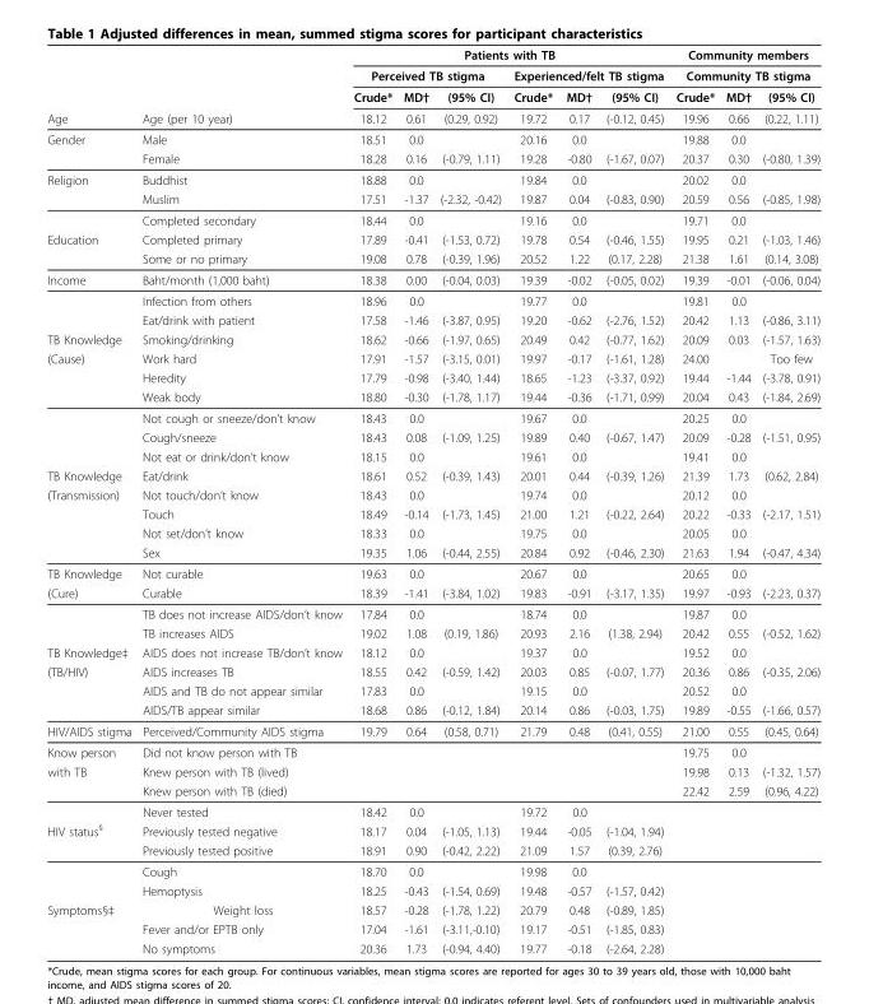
<table><thead><tr><td rowspan="3"></td><td rowspan="3"></td><td colspan="6">Patients with TB</td><td rowspan="2" colspan="3">Community members Community TB stigma</td></tr><tr><td colspan="3">Perceived TB stigma</td><td colspan="3">Experienced/felt TB stigma</td></tr><tr><td>Crude*</td><td>MD†</td><td>(95% CI)</td><td>Crude*</td><td>MD†</td><td>(95% CI)</td><td>Crude*</td><td>MD†</td><td>(95% CI)</td></tr></thead><tbody><tr><td>Age</td><td>Age (per 10 year)</td><td>18.12</td><td>0.61</td><td>(0.29, 0.92)</td><td>19.72</td><td>0.17</td><td>(-0.12, 0.45)</td><td>19.96</td><td>0.66</td><td>(0.22, 1.11)</td></tr><tr><td rowspan="2">Gender</td><td>Male</td><td>18.51</td><td>0.0</td><td></td><td>20.16</td><td>0.0</td><td></td><td>19.88</td><td>0.0</td><td></td></tr><tr><td>Female</td><td>18.28</td><td>0.16</td><td>(-0.79, 1.11)</td><td>19.28</td><td>-0.80</td><td>(-1.67, 0.07)</td><td>20.37</td><td>0.30</td><td>(-0.80, 1.39)</td></tr><tr><td rowspan="3">Religion</td><td>Buddhist</td><td>18.88</td><td>0.0</td><td></td><td>19.84</td><td>0.0</td><td></td><td>20.02</td><td>0.0</td><td></td></tr><tr><td>Muslim</td><td>17.51</td><td>-1.37</td><td>(-2.32, -0.42)</td><td>19.87</td><td>0.04</td><td>(-0.83, 0.90)</td><td>20.59</td><td>0.56</td><td>(-0.85, 1.98)</td></tr><tr><td>Completed secondary</td><td>18.44</td><td>0.0</td><td></td><td>19.16</td><td>0.0</td><td></td><td>19.71</td><td>0.0</td><td></td></tr><tr><td rowspan="2">Education</td><td>Completed primary</td><td>17.89</td><td>-0.41</td><td>(-1.53, 0.72)</td><td>19.78</td><td>0.54</td><td>(-0.46, 1.55)</td><td>19.95</td><td>0.21</td><td>(-1.03, 1.46)</td></tr><tr><td>Some or no primary</td><td>19.08</td><td>0.78</td><td>(-0.39, 1.96)</td><td>20.52</td><td>1.22</td><td>(0.17, 2.28)</td><td>21.38</td><td>1.61</td><td>(0.14, 3.08)</td></tr><tr><td rowspan="3">Income</td><td>Baht/month (1,000 baht)</td><td>18.38</td><td>0.00</td><td>(-0.04, 0.03)</td><td>19.39</td><td>-0.02</td><td>(-0.05, 0.02)</td><td>19.39</td><td>-0.01</td><td>(-0.06, 0.04)</td></tr><tr><td>Infection from others</td><td>18.96</td><td>0.0</td><td></td><td>19.77</td><td>0.0</td><td></td><td>19.81</td><td>0.0</td><td></td></tr><tr><td>Eat/drink with patient</td><td>17.58</td><td>-1.46</td><td>(-3.87, 0.95)</td><td>19.20</td><td>-0.62</td><td>(-2.76, 1.52)</td><td>20.42</td><td>1.13</td><td>(-0.86, 3.11)</td></tr><tr><td>TB Knowledge</td><td>Smoking/drinking</td><td>18.62</td><td>-0.66</td><td>(-1.97, 0.65)</td><td>20.49</td><td>0.42</td><td>(-0.77, 1.62)</td><td>20.09</td><td>0.03</td><td>(-1.57, 1.63)</td></tr><tr><td rowspan="6">(Cause)</td><td>Work hard</td><td>17.91</td><td>-1.57</td><td>(-3.15, 0.01)</td><td>19.97</td><td>-0.17</td><td>(-1.61, 1.28)</td><td>24.00</td><td></td><td>Too few</td></tr><tr><td>Heredity</td><td>17.79</td><td>-0.98</td><td>(-3.40, 1.44)</td><td>18.65</td><td>-1.23</td><td>(-3.37, 0.92)</td><td>19.44</td><td>-1.44</td><td>(-3.78, 0.91)</td></tr><tr><td>Weak body</td><td>18.80</td><td>-0.30</td><td>(-1.78, 1.17)</td><td>19.44</td><td>-0.36</td><td>(-1.71, 0.99)</td><td>20.04</td><td>0.43</td><td>(-1.84, 2.69)</td></tr><tr><td>Not cough or sneeze/don’t know</td><td>18.43</td><td>0.0</td><td></td><td>19.67</td><td>0.0</td><td></td><td>20.25</td><td>0.0</td><td></td></tr><tr><td>Cough/sneeze</td><td>18.43</td><td>0.08</td><td>(-1.09, 1.25)</td><td>19.89</td><td>0.40</td><td>(-0.67, 1.47)</td><td>20.09</td><td>-0.28</td><td>(-1.51, 0.95)</td></tr><tr><td>Not eat or drink/don’t know</td><td>18.15</td><td>0.0</td><td></td><td>19.61</td><td>0.0</td><td></td><td>19.41</td><td>0.0</td><td></td></tr><tr><td>TB Knowledge</td><td>Eat/drink</td><td>18.61</td><td>0.52</td><td>(-0.39, 1.43)</td><td>20.01</td><td>0.44</td><td>(-0.39, 1.26)</td><td>21.39</td><td>1.73</td><td>(0.62, 2.84)</td></tr><tr><td rowspan="4">(Transmission)</td><td>Not touch/don’t know</td><td>18.43</td><td>0.0</td><td></td><td>19.74</td><td>0.0</td><td></td><td>20.12</td><td>0.0</td><td></td></tr><tr><td>Touch</td><td>18.49</td><td>-0.14</td><td>(-1.73, 1.45)</td><td>21.00</td><td>1.21</td><td>(-0.22, 2.64)</td><td>20.22</td><td>-0.33</td><td>(-2.17, 1.51)</td></tr><tr><td>Not set/don’t know</td><td>18.33</td><td>0.0</td><td></td><td>19.75</td><td>0.0</td><td></td><td>20.05</td><td>0.0</td><td></td></tr><tr><td>Sex</td><td>19.35</td><td>1.06</td><td>(-0.44, 2.55)</td><td>20.84</td><td>0.92</td><td>(-0.46, 2.30)</td><td>21.63</td><td>1.94</td><td>(-0.47, 4.34)</td></tr><tr><td>TB Knowledge</td><td>Not curable</td><td>19.63</td><td>0.0</td><td></td><td>20.67</td><td>0.0</td><td></td><td>20.65</td><td>0.0</td><td></td></tr><tr><td rowspan="3">(Cure)</td><td>Curable</td><td>18.39</td><td>-1.41</td><td>(-3.84, 1.02)</td><td>19.83</td><td>-0.91</td><td>(-3.17, 1.35)</td><td>19.97</td><td>-0.93</td><td>(-2.23, 0.37)</td></tr><tr><td>TB does not increase AIDS/don’t know</td><td>17.84</td><td>0.0</td><td></td><td>18.74</td><td>0.0</td><td></td><td>19.87</td><td>0.0</td><td></td></tr><tr><td>TB increases AIDS</td><td>19.02</td><td>1.08</td><td>(0.19, 1.86)</td><td>20.93</td><td>2.16</td><td>(1.38, 2.94)</td><td>20.42</td><td>0.55</td><td>(-0.52, 1.62)</td></tr><tr><td>TB Knowledge‡</td><td>AIDS does not increase TB/don’t know</td><td>18.12</td><td>0.0</td><td></td><td>19.37</td><td>0.0</td><td></td><td>19.52</td><td>0.0</td><td></td></tr><tr><td rowspan="3">(TB/HIV)</td><td>AIDS increases TB</td><td>18.55</td><td>0.42</td><td>(-0.59, 1.42)</td><td>20.03</td><td>0.85</td><td>(-0.07, 1.77)</td><td>20.36</td><td>0.86</td><td>(-0.35, 2.06)</td></tr><tr><td>AIDS and TB do not appear similar</td><td>17.83</td><td>0.0</td><td></td><td>19.15</td><td>0.0</td><td></td><td>20.52</td><td>0.0</td><td></td></tr><tr><td>AIDS/TB appear similar</td><td>18.68</td><td>0.86</td><td>(-0.12, 1.84)</td><td>20.14</td><td>0.86</td><td>(-0.03, 1.75)</td><td>19.89</td><td>-0.55</td><td>(-1.66, 0.57)</td></tr><tr><td>HIV/AIDS stigma</td><td>Perceived/Community AIDS stigma</td><td>19.79</td><td>0.64</td><td>(0.58, 0.71)</td><td>21.79</td><td>0.48</td><td>(0.41, 0.55)</td><td>21.00</td><td>0.55</td><td>(0.45, 0.64)</td></tr><tr><td>Know person</td><td>Did not know person with TB</td><td></td><td></td><td></td><td></td><td></td><td></td><td>19.75</td><td>0.0</td><td></td></tr><tr><td rowspan="3">with TB</td><td>Knew person with TB (lived)</td><td></td><td></td><td></td><td></td><td></td><td></td><td>19.98</td><td>0.13</td><td>(-1.32, 1.57)</td></tr><tr><td>Knew person with TB (died)</td><td></td><td></td><td></td><td></td><td></td><td></td><td>22.42</td><td>2.59</td><td>(0.96, 4.22)</td></tr><tr><td>Never tested</td><td>18.42</td><td>0.0</td><td></td><td>19.72</td><td>0.0</td><td></td><td></td><td></td><td></td></tr><tr><td rowspan="4">HIV status<sup>§</sup></td><td>Previously tested negative</td><td>18.17</td><td>0.04</td><td>(-1.05, 1.13)</td><td>19.44</td><td>-0.05</td><td>(-1.04, 1.94)</td><td></td><td></td><td></td></tr><tr><td>Previously tested positive</td><td>18.91</td><td>0.90</td><td>(-0.42, 2.22)</td><td>21.09</td><td>1.57</td><td>(0.39, 2.76)</td><td></td><td></td><td></td></tr><tr><td>Cough</td><td>18.70</td><td>0.0</td><td></td><td>19.98</td><td>0.0</td><td></td><td></td><td></td><td></td></tr><tr><td>Hemoptysis</td><td>18.25</td><td>-0.43</td><td>(-1.54, 0.69)</td><td>19.48</td><td>-0.57</td><td>(-1.57, 0.42)</td><td></td><td></td><td></td></tr><tr><td rowspan="3">Symptoms§‡</td><td>Weight loss</td><td>18.57</td><td>-0.28</td><td>(-1.78, 1.22)</td><td>20.79</td><td>0.48</td><td>(-0.89, 1.85)</td><td></td><td></td><td></td></tr><tr><td>Fever and/or EPTB only</td><td>17.04</td><td>-1.61</td><td>(-3.11,-0.10)</td><td>19.17</td><td>-0.51</td><td>(-1.85, 0.83)</td><td></td><td></td><td></td></tr><tr><td>No symptoms</td><td>20.36</td><td>1.73</td><td>(-0.94, 4.40)</td><td>19.77</td><td>-0.18</td><td>(-2.64, 2.28)</td><td></td><td></td><td></td></tr></tbody></table>